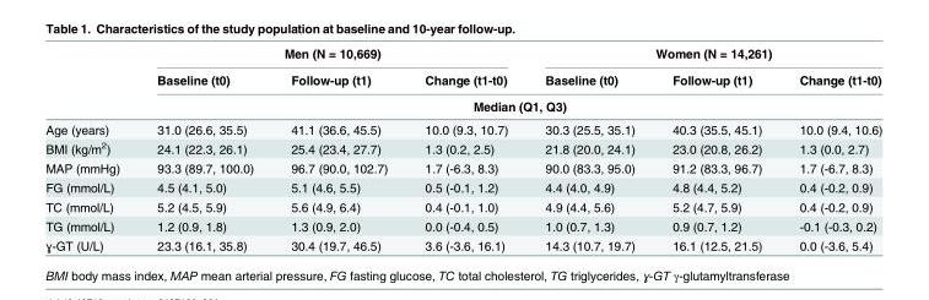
<table><thead><tr><td rowspan="3"></td><td colspan="3">Men (N = 10,669)</td><td colspan="3">Women (N = 14,261)</td></tr><tr><td>Baseline (t0)</td><td>Follow-up (t1)</td><td>Change (t1-t0)</td><td>Baseline (t0)</td><td>Follow-up (t1)</td><td>Change (t1-t0)</td></tr><tr><td colspan="6">Median (Q1, Q3)</td></tr></thead><tbody><tr><td>Age (years)</td><td>31.0 (26.6, 35.5)</td><td>41.1 (36.6, 45.5)</td><td>10.0 (9.3, 10.7)</td><td>30.3 (25.5, 35.1)</td><td>40.3 (35.5, 45.1)</td><td>10.0 (9.4, 10.6)</td></tr><tr><td>BMI (kg/m<sup>2</sup>)</td><td>24.1 (22.3, 26.1)</td><td>25.4 (23.4, 27.7)</td><td>1.3 (0.2, 2.5)</td><td>21.8 (20.0, 24.1)</td><td>23.0 (20.8, 26.2)</td><td>1.3 (0.0, 2.7)</td></tr><tr><td>MAP (mmHg)</td><td>93.3 (89.7, 100.0)</td><td>96.7 (90.0, 102.7)</td><td>1.7 (-6.3, 8.3)</td><td>90.0 (83.3, 95.0)</td><td>91.2 (83.3, 96.7)</td><td>1.7 (-6.7, 8.3)</td></tr><tr><td>FG (mmol/L)</td><td>4.5 (4.1, 5.0)</td><td>5.1 (4.6, 5.5)</td><td>0.5 (-0.1, 1.2)</td><td>4.4 (4.0, 4.9)</td><td>4.8 (4.4, 5.2)</td><td>0.4 (-0.2, 0.9)</td></tr><tr><td>TC (mmol/L)</td><td>5.2 (4.5, 5.9)</td><td>5.6 (4.9, 6.4)</td><td>0.4 (-0.1, 1.0)</td><td>4.9 (4.4, 5.6)</td><td>5.2 (4.7, 5.9)</td><td>0.4 (-0.2, 0.9)</td></tr><tr><td>TG (mmol/L)</td><td>1.2 (0.9, 1.8)</td><td>1.3 (0.9, 2.0)</td><td>0.0 (-0.4, 0.5)</td><td>1.0 (0.7, 1.3)</td><td>0.9 (0.7, 1.2)</td><td>-0.1 (-0.3, 0.2)</td></tr><tr><td>ɣ-GT (U/L)</td><td>23.3 (16.1, 35.8)</td><td>30.4 (19.7, 46.5)</td><td>3.6 (-3.6, 16.1)</td><td>14.3 (10.7, 19.7)</td><td>16.1 (12.5, 21.5)</td><td>0.0 (-3.6, 5.4)</td></tr></tbody></table>